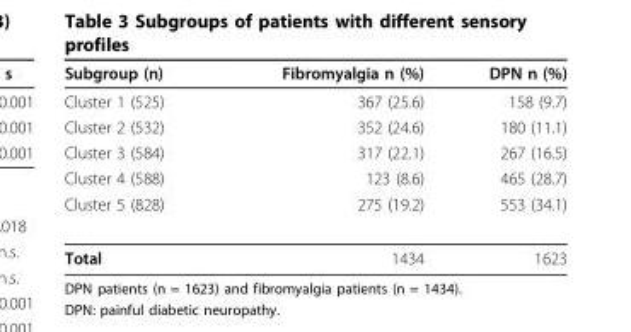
<table><thead><tr><td>Subgroup (n)</td><td>Fibromyalgia n (%)</td><td>DPN n (%)</td></tr></thead><tbody><tr><td>Cluster 1 (525)</td><td>367 (25.6)</td><td>158 (9.7)</td></tr><tr><td>Cluster 2 (532)</td><td>352 (24.6)</td><td>180 (11.1)</td></tr><tr><td>Cluster 3 (584)</td><td>317 (22.1)</td><td>267 (16.5)</td></tr><tr><td>Cluster 4 (588)</td><td>123 (8.6)</td><td>465 (28.7)</td></tr><tr><td>Cluster 5 (828)</td><td>275 (19.2)</td><td>553 (34.1)</td></tr><tr><td>Total</td><td>1434</td><td>1623</td></tr></tbody></table>